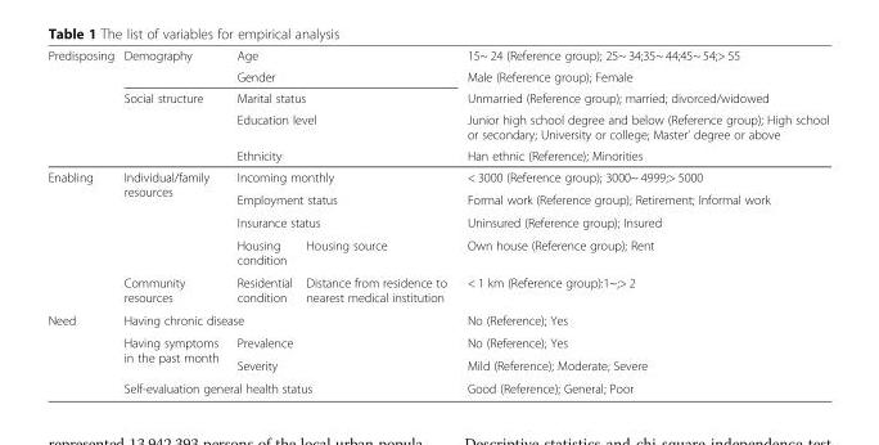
<table><thead><tr><td rowspan="5">Predisposing</td><td rowspan="5">Demography Social structure</td><td rowspan="5" colspan="2">Age Gender Marital status Education level Ethnicity</td><td rowspan="5">15~ 24 (Reference group); 25~ 34;35~ 44;45~ 54;&gt; 55 Male (Reference group); Female Unmarried (Reference group); married; divorced/widowed Junior high school degree and below (Reference group); High school or secondary; University or college; Master’ degree or above Han ethnic (Reference); Minorities</td></tr><tr></tr><tr></tr><tr></tr><tr></tr></thead><tbody><tr><td rowspan="5">Enabling</td><td rowspan="4">Individual/family resources</td><td colspan="2">Incoming monthly</td><td>&lt; 3000 (Reference group); 3000~ 4999;&gt; 5000</td></tr><tr><td colspan="2">Employment status</td><td>Formal work (Reference group); Retirement; Informal work</td></tr><tr><td colspan="2">Insurance status</td><td>Uninsured (Reference group); Insured</td></tr><tr><td>Housing condition</td><td>Housing source</td><td>Own house (Reference group); Rent</td></tr><tr><td>Community resources</td><td>Residential condition</td><td>Distance from residence to nearest medical institution</td><td>&lt; 1 km (Reference group):1~;&gt; 2</td></tr><tr><td rowspan="4">Need</td><td colspan="3">Having chronic disease</td><td>No (Reference); Yes</td></tr><tr><td rowspan="2">Having symptoms in the past month</td><td colspan="2">Prevalence</td><td>No (Reference); Yes</td></tr><tr><td colspan="2">Severity</td><td>Mild (Reference); Moderate; Severe</td></tr><tr><td colspan="3">Self-evaluation general health status</td><td>Good (Reference); General; Poor</td></tr></tbody></table>